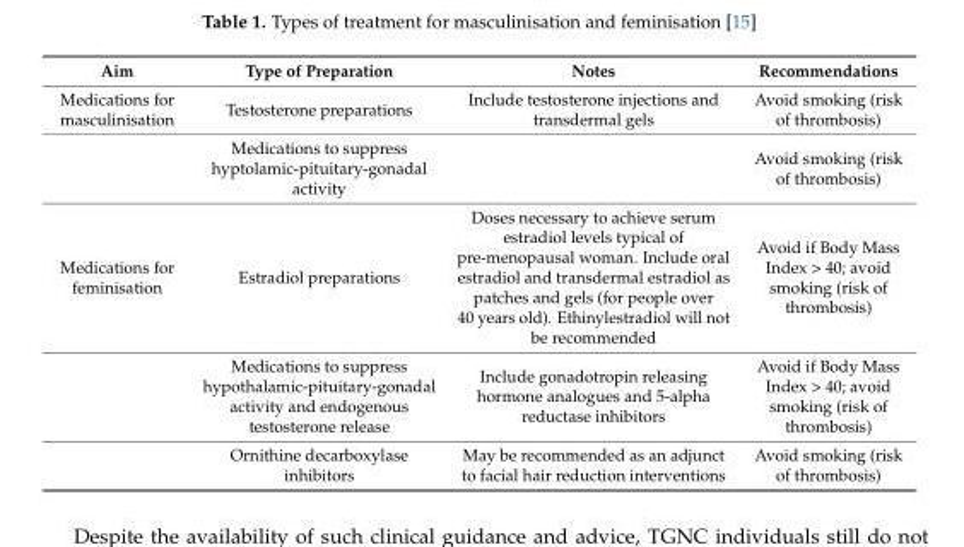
<table><thead><tr><td>Aim</td><td>Type of Preparation</td><td>Notes</td><td>Recommendations</td></tr></thead><tbody><tr><td rowspan="2">Medications for masculinisation</td><td>Testosterone preparations</td><td>Include testosterone injections and transdermal gels</td><td>Avoid smoking (risk of thrombosis)</td></tr><tr><td>Medications to suppress hyptolamic-pituitary-gonadal activity</td><td></td><td>Avoid smoking (risk of thrombosis)</td></tr><tr><td rowspan="3">Medications for feminisation</td><td>Estradiol preparations</td><td>Doses necessary to achieve serum estradiol levels typical of pre-menopausal woman. Include oral estradiol and transdermal estradiol as patches and gels (for people over 40 years old). Ethinylestradiol will not be recommended</td><td>Avoid if Body Mass Index &gt; 40; avoid smoking (risk of thrombosis)</td></tr><tr><td>Medications to suppress hypothalamic-pituitary-gonadal activity and endogenous testosterone release</td><td>Include gonadotropin releasing hormone analogues and 5-alpha reductase inhibitors</td><td>Avoid if Body Mass Index &gt; 40; avoid smoking (risk of thrombosis)</td></tr><tr><td>Ornithine decarboxylase inhibitors</td><td>May be recommended as an adjunct to facial hair reduction interventions</td><td>Avoid smoking (risk of thrombosis)</td></tr></tbody></table>